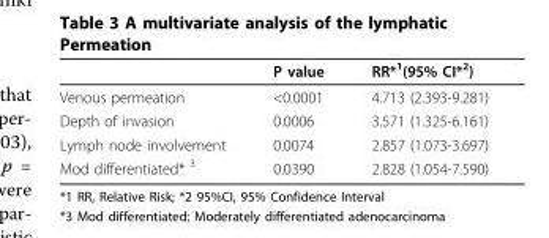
<table><thead><tr><td></td><td>P value</td><td>RR*<sup>1</sup>(95% CI*<sup>2</sup>)</td></tr></thead><tbody><tr><td>Venous permeation</td><td>&lt;0.0001</td><td>4.713 (2.393-9.281)</td></tr><tr><td>Depth of invasion</td><td>0.0006</td><td>3.571 (1.325-6.161)</td></tr><tr><td>Lymph node involvement</td><td>0.0074</td><td>2.857 (1.073-3.697)</td></tr><tr><td>Mod differentiated* <sup>3</sup></td><td>0.0390</td><td>2.828 (1.054-7.590)</td></tr></tbody></table>